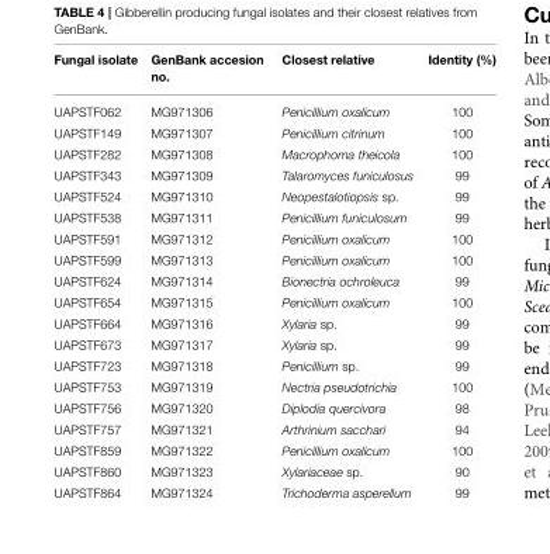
<table><thead><tr><td>Fungal isolate</td><td>GenBank accesion no.</td><td>Closest relative</td><td>Identity (%)</td></tr></thead><tbody><tr><td>UAPSTF062</td><td>MG971306</td><td>Penicillium oxalicum</td><td>100</td></tr><tr><td>UAPSTF149</td><td>MG971307</td><td>Penicillium citrinum</td><td>100</td></tr><tr><td>UAPSTF282</td><td>MG971308</td><td>Macrophoma theicola</td><td>100</td></tr><tr><td>UAPSTF343</td><td>MG971309</td><td>Talaromyces funiculosus</td><td>99</td></tr><tr><td>UAPSTF524</td><td>MG971310</td><td>Neopestalotiopsis sp.</td><td>99</td></tr><tr><td>UAPSTF538</td><td>MG971311</td><td>Penicillium funiculosum</td><td>99</td></tr><tr><td>UAPSTF591</td><td>MG971312</td><td>Penicillium oxalicum</td><td>100</td></tr><tr><td>UAPSTF599</td><td>MG971313</td><td>Penicillium oxalicum</td><td>100</td></tr><tr><td>UAPSTF624</td><td>MG971314</td><td>Bionectria ochroleuca</td><td>99</td></tr><tr><td>UAPSTF654</td><td>MG971315</td><td>Penicillium oxalicum</td><td>100</td></tr><tr><td>UAPSTF664</td><td>MG971316</td><td>Xylaria sp.</td><td>99</td></tr><tr><td>UAPSTF673</td><td>MG971317</td><td>Xylaria sp.</td><td>99</td></tr><tr><td>UAPSTF723</td><td>MG971318</td><td>Penicillium sp.</td><td>99</td></tr><tr><td>UAPSTF753</td><td>MG971319</td><td>Nectria pseudotrichia</td><td>100</td></tr><tr><td>UAPSTF756</td><td>MG971320</td><td>Diplodia quercivora</td><td>98</td></tr><tr><td>UAPSTF757</td><td>MG971321</td><td>Arthrinium sacchari</td><td>94</td></tr><tr><td>UAPSTF859</td><td>MG971322</td><td>Penicillium oxalicum</td><td>100</td></tr><tr><td>UAPSTF860</td><td>MG971323</td><td>Xylariaceae sp.</td><td>90</td></tr><tr><td>UAPSTF864</td><td>MG971324</td><td>Trichoderma asperellum</td><td>99</td></tr></tbody></table>